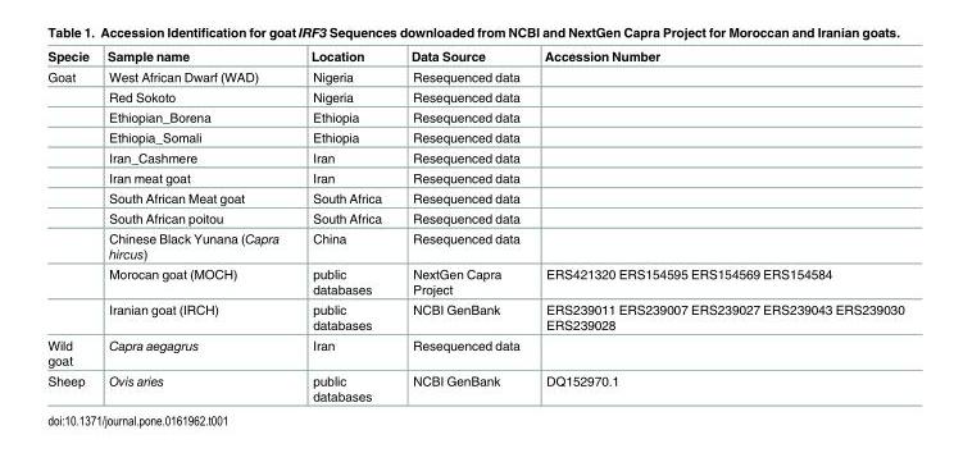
<table><thead><tr><td>Specie</td><td>Sample name</td><td>Location</td><td>Data Source</td><td>Accession Number</td></tr></thead><tbody><tr><td rowspan="11">Goat</td><td>West African Dwarf (WAD)</td><td>Nigeria</td><td>Resequenced data</td><td></td></tr><tr><td>Red Sokoto</td><td>Nigeria</td><td>Resequenced data</td><td></td></tr><tr><td>Ethiopian_Borena</td><td>Ethiopia</td><td>Resequenced data</td><td></td></tr><tr><td>Ethiopia_Somali</td><td>Ethiopia</td><td>Resequenced data</td><td></td></tr><tr><td>Iran_Cashmere</td><td>Iran</td><td>Resequenced data</td><td></td></tr><tr><td>Iran meat goat</td><td>Iran</td><td>Resequenced data</td><td></td></tr><tr><td>South African Meat goat</td><td>South Africa</td><td>Resequenced data</td><td></td></tr><tr><td>South African poitou</td><td>South Africa</td><td>Resequenced data</td><td></td></tr><tr><td>Chinese Black Yunana (Capra hircus)</td><td>China</td><td>Resequenced data</td><td></td></tr><tr><td>Morocan goat (MOCH)</td><td>public databases</td><td>NextGen Capra Project</td><td>ERS421320 ERS154595 ERS154569 ERS154584</td></tr><tr><td>Iranian goat (IRCH)</td><td>public databases</td><td>NCBI GenBank</td><td>ERS239011 ERS239007 ERS239027 ERS239043 ERS239030 ERS239028</td></tr><tr><td>Wild goat</td><td>Capra aegagrus</td><td>Iran</td><td>Resequenced data</td><td></td></tr><tr><td>Sheep</td><td>Ovis aries</td><td>public databases</td><td>NCBI GenBank</td><td>DQ152970.1</td></tr></tbody></table>